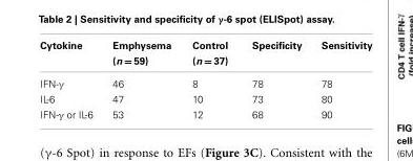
<table><thead><tr><td>Cytokine</td><td>Emphysema (n = 59)</td><td>Control (n = 37)</td><td>Specificity</td><td>Sensitivity</td></tr></thead><tbody><tr><td>IFN-γ</td><td>46</td><td>8</td><td>78</td><td>78</td></tr><tr><td>IL-6</td><td>47</td><td>10</td><td>73</td><td>80</td></tr><tr><td>IFN-γ or IL-6</td><td>53</td><td>12</td><td>68</td><td>90</td></tr></tbody></table>